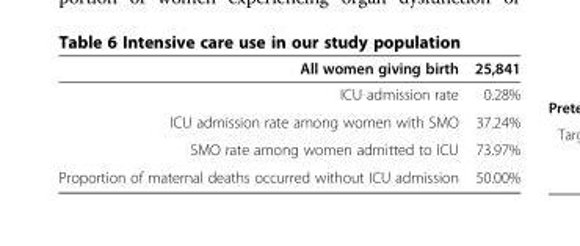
<table><thead><tr><td>All women giving birth</td><td>25,841</td></tr></thead><tbody><tr><td>ICU admission rate</td><td>0.28%</td></tr><tr><td>ICU admission rate among women with SMO</td><td>37.24%</td></tr><tr><td>SMO rate among women admitted to ICU</td><td>73.97%</td></tr><tr><td>Proportion of maternal deaths occurred without ICU admission</td><td>50.00%</td></tr></tbody></table>